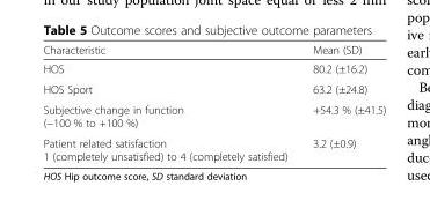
<table><thead><tr><td>Characteristic</td><td>Mean (SD)</td></tr></thead><tbody><tr><td>HOS</td><td>80.2 (±16.2)</td></tr><tr><td>HOS Sport</td><td>63.2 (±24.8)</td></tr><tr><td>Subjective change in function (−100 % to +100 %)</td><td>+54.3 % (±41.5)</td></tr><tr><td>Patient related satisfaction 1 (completely unsatisfied) to 4 (completely satisfied)</td><td>3.2 (±0.9)</td></tr></tbody></table>